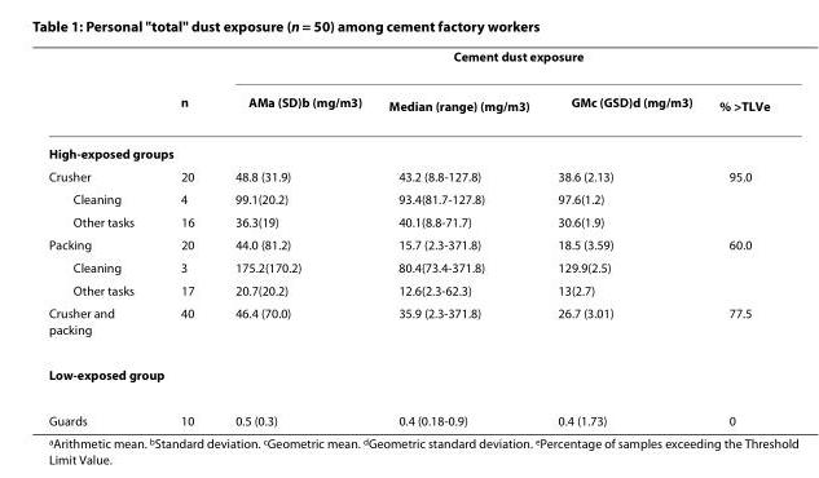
<table><thead><tr><td rowspan="2"></td><td rowspan="2">n</td><td colspan="4">Cement dust exposure</td></tr><tr><td>AM<sup>a</sup> (SD)<sup>b</sup> (mg/m<sup>3</sup>)</td><td>Median (range) (mg/m<sup>3</sup>)</td><td>GM<sup>c</sup> (GSD)<sup>d</sup> (mg/m<sup>3</sup>)</td><td>% &gt;TLV<sup>e</sup></td></tr></thead><tbody><tr><td colspan="6">High-exposed groups</td></tr><tr><td>Crusher</td><td>20</td><td>48.8 (31.9)</td><td>43.2 (8.8-127.8)</td><td>38.6 (2.13)</td><td>95.0</td></tr><tr><td>Cleaning</td><td>4</td><td>99.1(20.2)</td><td>93.4(81.7-127.8)</td><td>97.6(1.2)</td><td></td></tr><tr><td>Other tasks</td><td>16</td><td>36.3(19)</td><td>40.1(8.8-71.7)</td><td>30.6(1.9)</td><td></td></tr><tr><td>Packing</td><td>20</td><td>44.0 (81.2)</td><td>15.7 (2.3-371.8)</td><td>18.5 (3.59)</td><td>60.0</td></tr><tr><td>Cleaning</td><td>3</td><td>175.2(170.2)</td><td>80.4(73.4-371.8)</td><td>129.9(2.5)</td><td></td></tr><tr><td>Other tasks</td><td>17</td><td>20.7(20.2)</td><td>12.6(2.3-62.3)</td><td>13(2.7)</td><td></td></tr><tr><td>Crusher and packing</td><td>40</td><td>46.4 (70.0)</td><td>35.9 (2.3-371.8)</td><td>26.7 (3.01)</td><td>77.5</td></tr><tr><td colspan="6">Low-exposed group</td></tr><tr><td>Guards</td><td>10</td><td>0.5 (0.3)</td><td>0.4 (0.18-0.9)</td><td>0.4 (1.73)</td><td>0</td></tr></tbody></table>